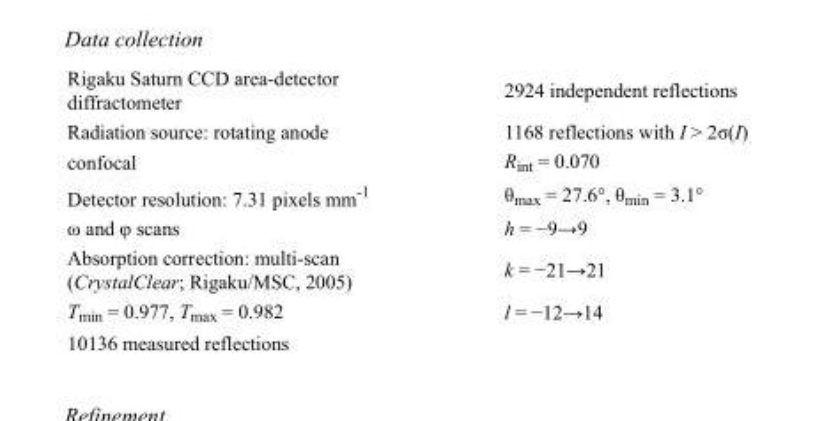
<table><tbody><tr><td>Rigaku Saturn CCD area-detector diffractometer</td><td>2924 independent reflections</td></tr><tr><td>Radiation source: rotating anode</td><td>1168 reflections with I &gt; 2σ(I)</td></tr><tr><td>confocal</td><td>R<sub>int</sub> = 0.070</td></tr><tr><td>Detector resolution: 7.31 pixels mm<sup>-1</sup></td><td>θ<sub>max</sub> = 27.6°, θ<sub>min</sub> = 3.1°</td></tr><tr><td>ω and φ scans</td><td>h = −9→9</td></tr><tr><td>Absorption correction: multi-scan (CrystalClear; Rigaku/MSC, 2005)</td><td>k = −21→21</td></tr><tr><td>T<sub>min</sub> = 0.977, T<sub>max</sub> = 0.982</td><td>l = −12→14</td></tr><tr><td>10136 measured reflections</td><td></td></tr></tbody></table>